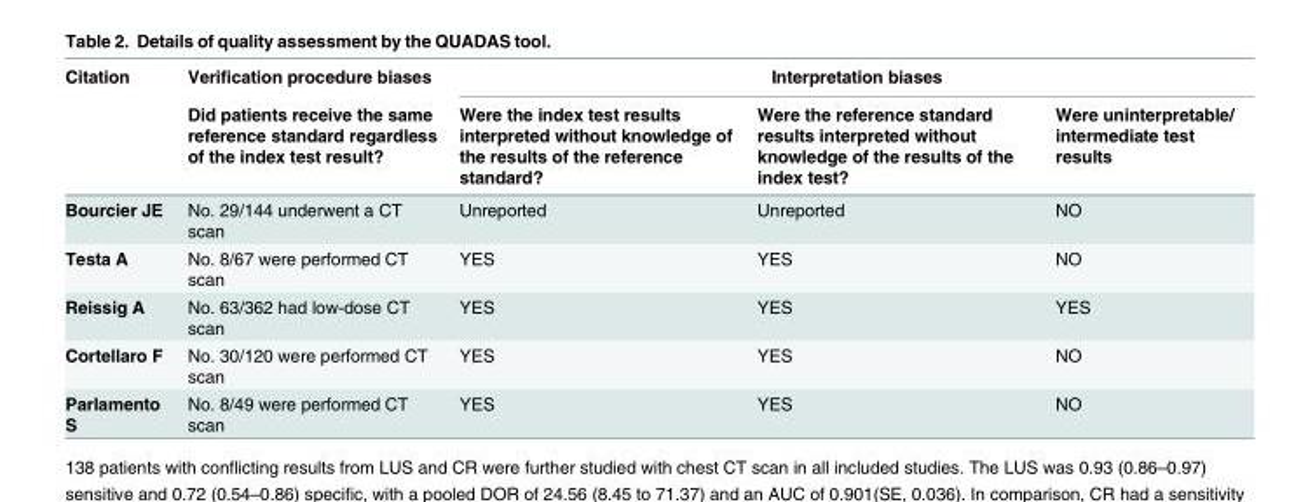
<table><thead><tr><td rowspan="2">Citation</td><td rowspan="2">Verification procedure biases Did patients receive the same reference standard regardless of the index test result?</td><td colspan="3">Interpretation biases</td></tr><tr><td>Were the index test results interpreted without knowledge of the results of the reference standard?</td><td>Were the reference standard results interpreted without knowledge of the results of the index test?</td><td>Were uninterpretable/ intermediate test results</td></tr></thead><tbody><tr><td>Bourcier JE</td><td>No. 29/144 underwent a CT scan</td><td>Unreported</td><td>Unreported</td><td>NO</td></tr><tr><td>Testa A</td><td>No. 8/67 were performed CT scan</td><td>YES</td><td>YES</td><td>NO</td></tr><tr><td>Reissig A</td><td>No. 63/362 had low-dose CT scan</td><td>YES</td><td>YES</td><td>YES</td></tr><tr><td>Cortellaro F</td><td>No. 30/120 were performed CT scan</td><td>YES</td><td>YES</td><td>NO</td></tr><tr><td>Parlamento S</td><td>No. 8/49 were performed CT scan</td><td>YES</td><td>YES</td><td>NO</td></tr></tbody></table>